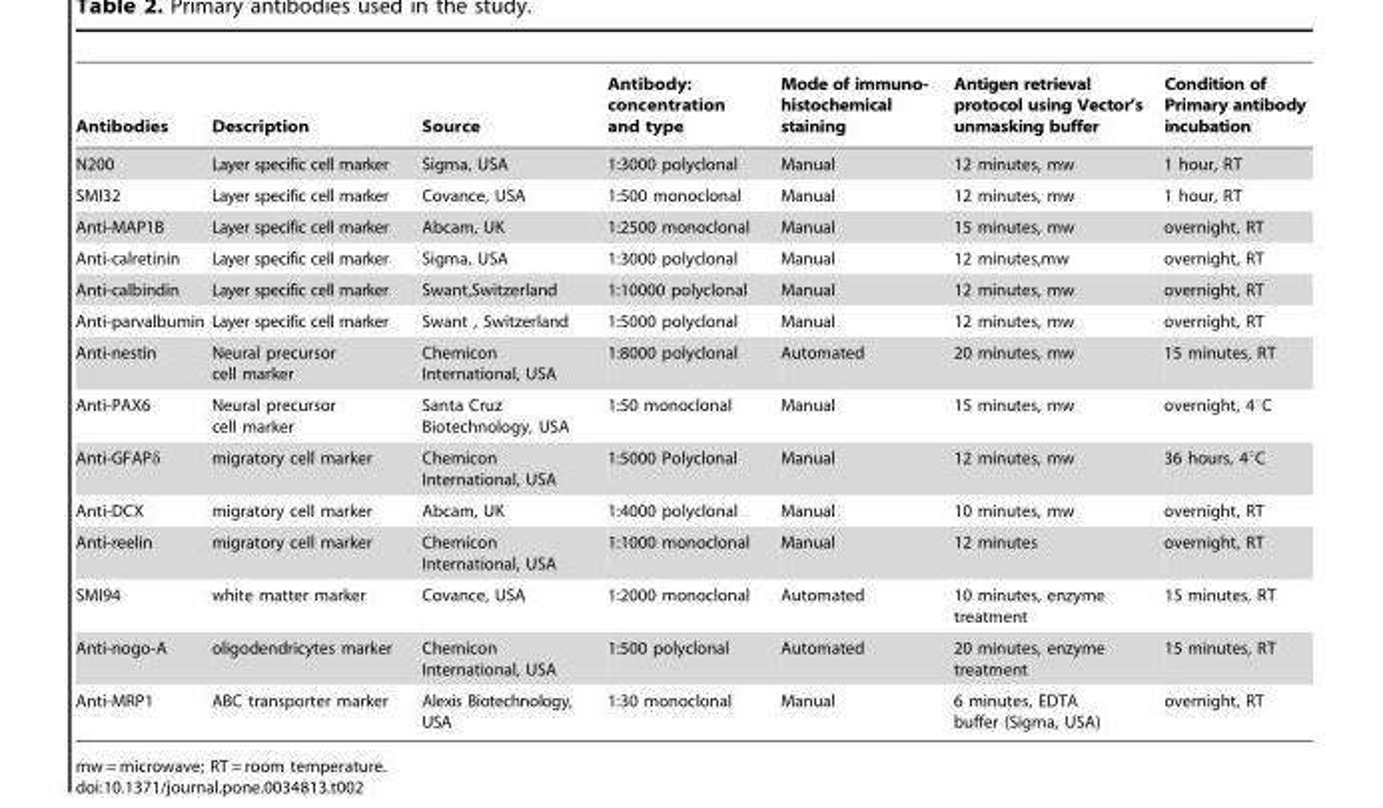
<table><thead><tr><td>Antibodies</td><td>Description</td><td>Source</td><td>Antibody: concentration and type</td><td>Mode of immuno- histochemical staining</td><td>Antigen retrieval protocol using Vector’s unmasking buffer</td><td>Condition of Primary antibody incubation</td></tr></thead><tbody><tr><td>N200</td><td>Layer specific cell marker</td><td>Sigma, USA</td><td>1:3000 polyclonal</td><td>Manual</td><td>12 minutes, mw</td><td>1 hour, RT</td></tr><tr><td>SMI32</td><td>Layer specific cell marker</td><td>Covance, USA</td><td>1:500 monoclonal</td><td>Manual</td><td>12 minutes, mw</td><td>1 hour, RT</td></tr><tr><td>Anti-MAP1B</td><td>Layer specific cell marker</td><td>Abcam, UK</td><td>1:2500 monoclonal</td><td>Manual</td><td>15 minutes, mw</td><td>overnight, RT</td></tr><tr><td>Anti-calretinin</td><td>Layer specific cell marker</td><td>Sigma, USA</td><td>1:3000 polyclonal</td><td>Manual</td><td>12 minutes,mw</td><td>overnight, RT</td></tr><tr><td>Anti-calbindin</td><td>Layer specific cell marker</td><td>Swant,Switzerland</td><td>1:10000 polyclonal</td><td>Manual</td><td>12 minutes, mw</td><td>overnight, RT</td></tr><tr><td>Anti-parvalbumin</td><td>Layer specific cell marker</td><td>Swant , Switzerland</td><td>1:5000 polyclonal</td><td>Manual</td><td>12 minutes, mw</td><td>overnight, RT</td></tr><tr><td>Anti-nestin</td><td>Neural precursor cell marker</td><td>Chemicon International, USA</td><td>1:8000 polyclonal</td><td>Automated</td><td>20 minutes, mw</td><td>15 minutes, RT</td></tr><tr><td>Anti-PAX6</td><td>Neural precursor cell marker</td><td>Santa Cruz Biotechnology, USA</td><td>1:50 monoclonal</td><td>Manual</td><td>15 minutes, mw</td><td>overnight, 4°C</td></tr><tr><td>Anti-GFAPδ</td><td>migratory cell marker</td><td>Chemicon International, USA</td><td>1:5000 Polyclonal</td><td>Manual</td><td>12 minutes, mw</td><td>36 hours, 4°C</td></tr><tr><td>Anti-DCX</td><td>migratory cell marker</td><td>Abcam, UK</td><td>1:4000 polyclonal</td><td>Manual</td><td>10 minutes, mw</td><td>overnight, RT</td></tr><tr><td>Anti-reelin</td><td>migratory cell marker</td><td>Chemicon International, USA</td><td>1:1000 monoclonal</td><td>Manual</td><td>12 minutes</td><td>overnight, RT</td></tr><tr><td>SMI94</td><td>white matter marker</td><td>Covance, USA</td><td>1:2000 monoclonal</td><td>Automated</td><td>10 minutes, enzyme treatment</td><td>15 minutes, RT</td></tr><tr><td>Anti-nogo-A</td><td>oligodendricytes marker</td><td>Chemicon International, USA</td><td>1:500 polyclonal</td><td>Automated</td><td>20 minutes, enzyme treatment</td><td>15 minutes, RT</td></tr><tr><td>Anti-MRP1</td><td>ABC transporter marker</td><td>Alexis Biotechnology, USA</td><td>1:30 monoclonal</td><td>Manual</td><td>6 minutes, EDTA buffer (Sigma, USA)</td><td>overnight, RT</td></tr></tbody></table>